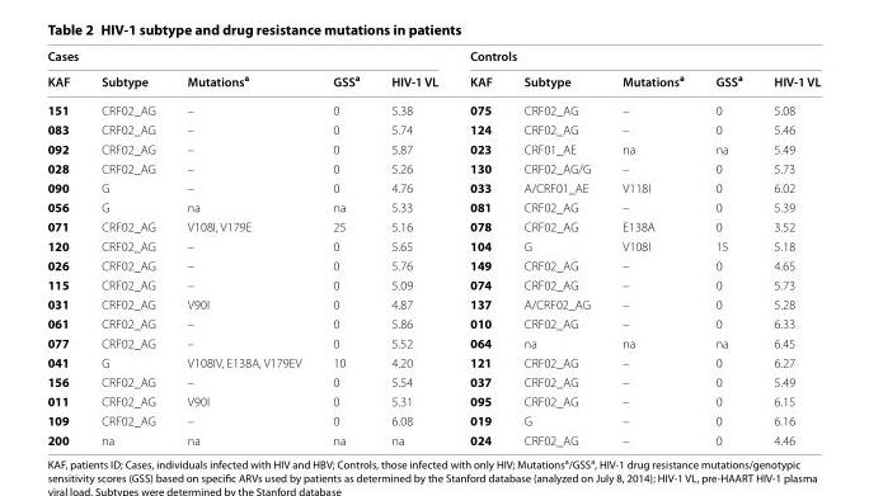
<table><thead><tr><td colspan="5">Cases</td><td colspan="5">Controls</td></tr><tr><td>KAF</td><td>Subtype</td><td>Mutations<sup>a</sup></td><td>GSS<sup>a</sup></td><td>HIV‑1 VL</td><td>KAF</td><td>Subtype</td><td>Mutations<sup>a</sup></td><td>GSS<sup>a</sup></td><td>HIV‑1 VL</td></tr></thead><tbody><tr><td>151</td><td>CRF02_AG</td><td>–</td><td>0</td><td>5.38</td><td>075</td><td>CRF02_AG</td><td>–</td><td>0</td><td>5.08</td></tr><tr><td>083</td><td>CRF02_AG</td><td>–</td><td>0</td><td>5.74</td><td>124</td><td>CRF02_AG</td><td>–</td><td>0</td><td>5.46</td></tr><tr><td>092</td><td>CRF02_AG</td><td>–</td><td>0</td><td>5.87</td><td>023</td><td>CRF01_AE</td><td>na</td><td>na</td><td>5.49</td></tr><tr><td>028</td><td>CRF02_AG</td><td>–</td><td>0</td><td>5.26</td><td>130</td><td>CRF02_AG/G</td><td>–</td><td>0</td><td>5.73</td></tr><tr><td>090</td><td>G</td><td>–</td><td>0</td><td>4.76</td><td>033</td><td>A/CRF01_AE</td><td>V118I</td><td>0</td><td>6.02</td></tr><tr><td>056</td><td>G</td><td>na</td><td>na</td><td>5.33</td><td>081</td><td>CRF02_AG</td><td>–</td><td>0</td><td>5.39</td></tr><tr><td>071</td><td>CRF02_AG</td><td>V108I, V179E</td><td>25</td><td>5.16</td><td>078</td><td>CRF02_AG</td><td>E138A</td><td>0</td><td>3.52</td></tr><tr><td>120</td><td>CRF02_AG</td><td>–</td><td>0</td><td>5.65</td><td>104</td><td>G</td><td>V108I</td><td>15</td><td>5.18</td></tr><tr><td>026</td><td>CRF02_AG</td><td>–</td><td>0</td><td>5.76</td><td>149</td><td>CRF02_AG</td><td>–</td><td>0</td><td>4.65</td></tr><tr><td>115</td><td>CRF02_AG</td><td>–</td><td>0</td><td>5.09</td><td>074</td><td>CRF02_AG</td><td>–</td><td>0</td><td>5.73</td></tr><tr><td>031</td><td>CRF02_AG</td><td>V90I</td><td>0</td><td>4.87</td><td>137</td><td>A/CRF02_AG</td><td>–</td><td>0</td><td>5.28</td></tr><tr><td>061</td><td>CRF02_AG</td><td>–</td><td>0</td><td>5.86</td><td>010</td><td>CRF02_AG</td><td>–</td><td>0</td><td>6.33</td></tr><tr><td>077</td><td>CRF02_AG</td><td>–</td><td>0</td><td>5.52</td><td>064</td><td>na</td><td>na</td><td>na</td><td>6.45</td></tr><tr><td>041</td><td>G</td><td>V108IV, E138A, V179EV</td><td>10</td><td>4.20</td><td>121</td><td>CRF02_AG</td><td>–</td><td>0</td><td>6.27</td></tr><tr><td>156</td><td>CRF02_AG</td><td>–</td><td>0</td><td>5.54</td><td>037</td><td>CRF02_AG</td><td>–</td><td>0</td><td>5.49</td></tr><tr><td>011</td><td>CRF02_AG</td><td>V90I</td><td>0</td><td>5.31</td><td>095</td><td>CRF02_AG</td><td>–</td><td>0</td><td>6.15</td></tr><tr><td>109</td><td>CRF02_AG</td><td>–</td><td>0</td><td>6.08</td><td>019</td><td>G</td><td>–</td><td>0</td><td>6.16</td></tr><tr><td>200</td><td>na</td><td>na</td><td>na</td><td>na</td><td>024</td><td>CRF02_AG</td><td>–</td><td>0</td><td>4.46</td></tr></tbody></table>